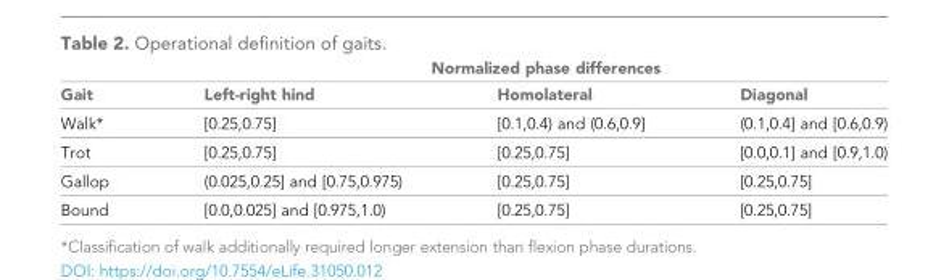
<table><thead><tr><td rowspan="2">Gait</td><td colspan="3">Normalized phase differences</td></tr><tr><td>Left-right hind</td><td>Homolateral</td><td>Diagonal</td></tr></thead><tbody><tr><td>Walk*</td><td>[0.25,0.75]</td><td>[0.1,0.4) and (0.6,0.9]</td><td>(0.1,0.4] and [0.6,0.9)</td></tr><tr><td>Trot</td><td>[0.25,0.75]</td><td>[0.25,0.75]</td><td>[0.0,0.1] and [0.9,1.0)</td></tr><tr><td>Gallop</td><td>(0.025,0.25] and [0.75,0.975)</td><td>[0.25,0.75]</td><td>[0.25,0.75]</td></tr><tr><td>Bound</td><td>[0.0,0.025] and [0.975,1.0)</td><td>[0.25,0.75]</td><td>[0.25,0.75]</td></tr></tbody></table>